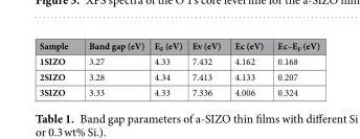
<table><thead><tr><td>Sample</td><td>Band gap (eV)</td><td>E<sub>F</sub> (eV)</td><td>Ev (eV)</td><td>Ec (eV)</td><td>Ec–E<sub>F</sub> (eV)</td></tr></thead><tbody><tr><td>1SIZO</td><td>3.27</td><td>4.33</td><td>7.432</td><td>4.162</td><td>0.168</td></tr><tr><td>2SIZO</td><td>3.28</td><td>4.34</td><td>7.413</td><td>4.133</td><td>0.207</td></tr><tr><td>3SIZO</td><td>3.33</td><td>4.33</td><td>7.336</td><td>4.006</td><td>0.324</td></tr></tbody></table>